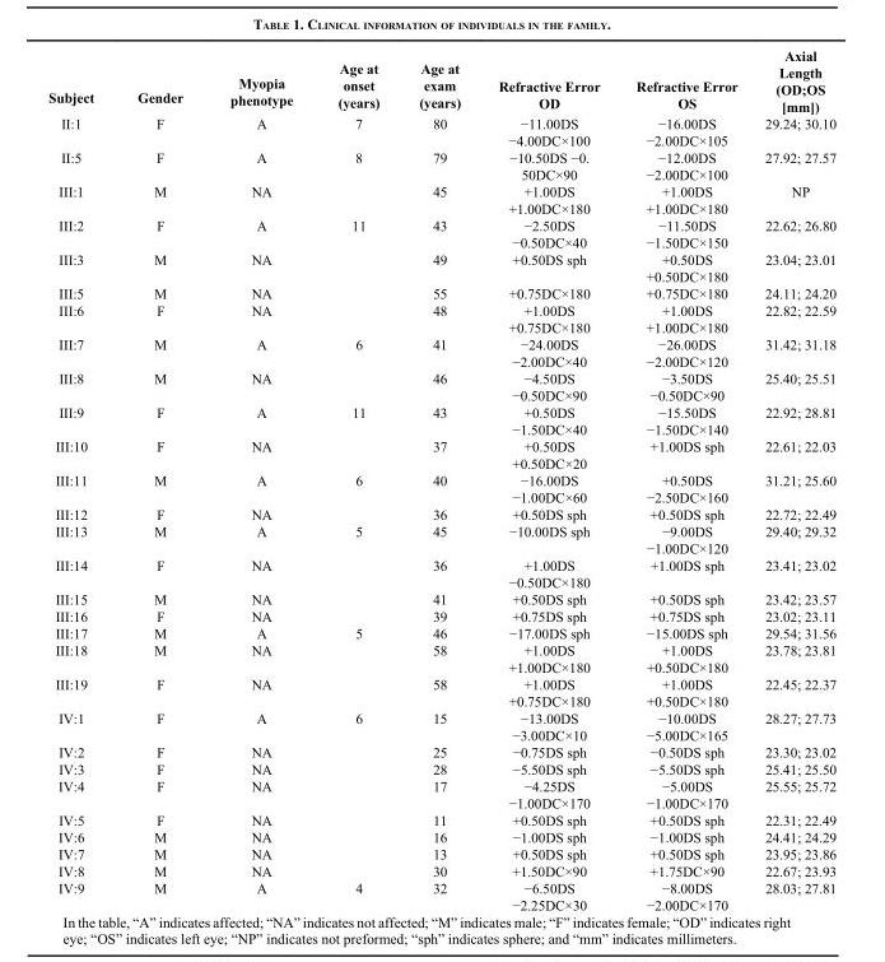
<table><thead><tr><td>Subject</td><td>Gender</td><td>Myopia phenotype</td><td>Age at onset (years)</td><td>Age at exam (years)</td><td>Refractive Error OD</td><td>Refractive Error OS</td><td>Axial Length (OD;OS [mm])</td></tr></thead><tbody><tr><td>II:1</td><td>F</td><td>A</td><td>7</td><td>80</td><td>−11.00DS −4.00DC×100</td><td>−16.00DS −2.00DC×105</td><td>29.24; 30.10</td></tr><tr><td>II:5</td><td>F</td><td>A</td><td>8</td><td>79</td><td>−10.50DS −0. 50DC×90</td><td>−12.00DS −2.00DC×100</td><td>27.92; 27.57</td></tr><tr><td>III:1</td><td>M</td><td>NA</td><td></td><td>45</td><td>+1.00DS +1.00DC×180</td><td>+1.00DS +1.00DC×180</td><td>NP</td></tr><tr><td>III:2</td><td>F</td><td>A</td><td>11</td><td>43</td><td>−2.50DS −0.50DC×40</td><td>−11.50DS −1.50DC×150</td><td>22.62; 26.80</td></tr><tr><td>III:3</td><td>M</td><td>NA</td><td></td><td>49</td><td>+0.50DS sph</td><td>+0.50DS +0.50DC×180</td><td>23.04; 23.01</td></tr><tr><td>III:5</td><td>M</td><td>NA</td><td></td><td>55</td><td>+0.75DC×180</td><td>+0.75DC×180</td><td>24.11; 24.20</td></tr><tr><td>III:6</td><td>F</td><td>NA</td><td></td><td>48</td><td>+1.00DS +0.75DC×180</td><td>+1.00DS +1.00DC×180</td><td>22.82; 22.59</td></tr><tr><td>III:7</td><td>M</td><td>A</td><td>6</td><td>41</td><td>−24.00DS −2.00DC×40</td><td>−26.00DS −2.00DC×120</td><td>31.42; 31.18</td></tr><tr><td>III:8</td><td>M</td><td>NA</td><td></td><td>46</td><td>−4.50DS −0.50DC×90</td><td>−3.50DS −0.50DC×90</td><td>25.40; 25.51</td></tr><tr><td>III:9</td><td>F</td><td>A</td><td>11</td><td>43</td><td>+0.50DS −1.50DC×40</td><td>−15.50DS −1.50DC×140</td><td>22.92; 28.81</td></tr><tr><td>III:10</td><td>F</td><td>NA</td><td></td><td>37</td><td>+0.50DS +0.50DC×20</td><td>+1.00DS sph</td><td>22.61; 22.03</td></tr><tr><td>III:11</td><td>M</td><td>A</td><td>6</td><td>40</td><td>−16.00DS −1.00DC×60</td><td>+0.50DS −2.50DC×160</td><td>31.21; 25.60</td></tr><tr><td>III:12</td><td>F</td><td>NA</td><td></td><td>36</td><td>+0.50DS sph</td><td>+0.50DS sph</td><td>22.72; 22.49</td></tr><tr><td>III:13</td><td>M</td><td>A</td><td>5</td><td>45</td><td>−10.00DS sph</td><td>−9.00DS −1.00DC×120</td><td>29.40; 29.32</td></tr><tr><td>III:14</td><td>F</td><td>NA</td><td></td><td>36</td><td>+1.00DS −0.50DC×180</td><td>+1.00DS sph</td><td>23.41; 23.02</td></tr><tr><td>III:15</td><td>M</td><td>NA</td><td></td><td>41</td><td>+0.50DS sph</td><td>+0.50DS sph</td><td>23.42; 23.57</td></tr><tr><td>III:16</td><td>F</td><td>NA</td><td></td><td>39</td><td>+0.75DS sph</td><td>+0.75DS sph</td><td>23.02; 23.11</td></tr><tr><td>III:17</td><td>M</td><td>A</td><td>5</td><td>46</td><td>−17.00DS sph</td><td>−15.00DS sph</td><td>29.54; 31.56</td></tr><tr><td>III:18</td><td>M</td><td>NA</td><td></td><td>58</td><td>+1.00DS +1.00DC×180</td><td>+1.00DS +0.50DC×180</td><td>23.78; 23.81</td></tr><tr><td>III:19</td><td>F</td><td>NA</td><td></td><td>58</td><td>+1.00DS +0.75DC×180</td><td>+1.00DS +0.50DC×180</td><td>22.45; 22.37</td></tr><tr><td>IV:1</td><td>F</td><td>A</td><td>6</td><td>15</td><td>−13.00DS −3.00DC×10</td><td>−10.00DS −5.00DC×165</td><td>28.27; 27.73</td></tr><tr><td>IV:2</td><td>F</td><td>NA</td><td></td><td>25</td><td>−0.75DS sph</td><td>−0.50DS sph</td><td>23.30; 23.02</td></tr><tr><td>IV:3</td><td>F</td><td>NA</td><td></td><td>28</td><td>−5.50DS sph</td><td>−5.50DS sph</td><td>25.41; 25.50</td></tr><tr><td>IV:4</td><td>F</td><td>NA</td><td></td><td>17</td><td>−4.25DS −1.00DC×170</td><td>−5.00DS −1.00DC×170</td><td>25.55; 25.72</td></tr><tr><td>IV:5</td><td>F</td><td>NA</td><td></td><td>11</td><td>+0.50DS sph</td><td>+0.50DS sph</td><td>22.31; 22.49</td></tr><tr><td>IV:6</td><td>M</td><td>NA</td><td></td><td>16</td><td>−1.00DS sph</td><td>−1.00DS sph</td><td>24.41; 24.29</td></tr><tr><td>IV:7</td><td>M</td><td>NA</td><td></td><td>13</td><td>+0.50DS sph</td><td>+0.50DS sph</td><td>23.95; 23.86</td></tr><tr><td>IV:8</td><td>M</td><td>NA</td><td></td><td>30</td><td>+1.50DC×90</td><td>+1.75DC×90</td><td>22.67; 23.93</td></tr><tr><td>IV:9</td><td>M</td><td>A</td><td>4</td><td>32</td><td>−6.50DS −2.25DC×30</td><td>−8.00DS −2.00DC×170</td><td>28.03; 27.81</td></tr></tbody></table>